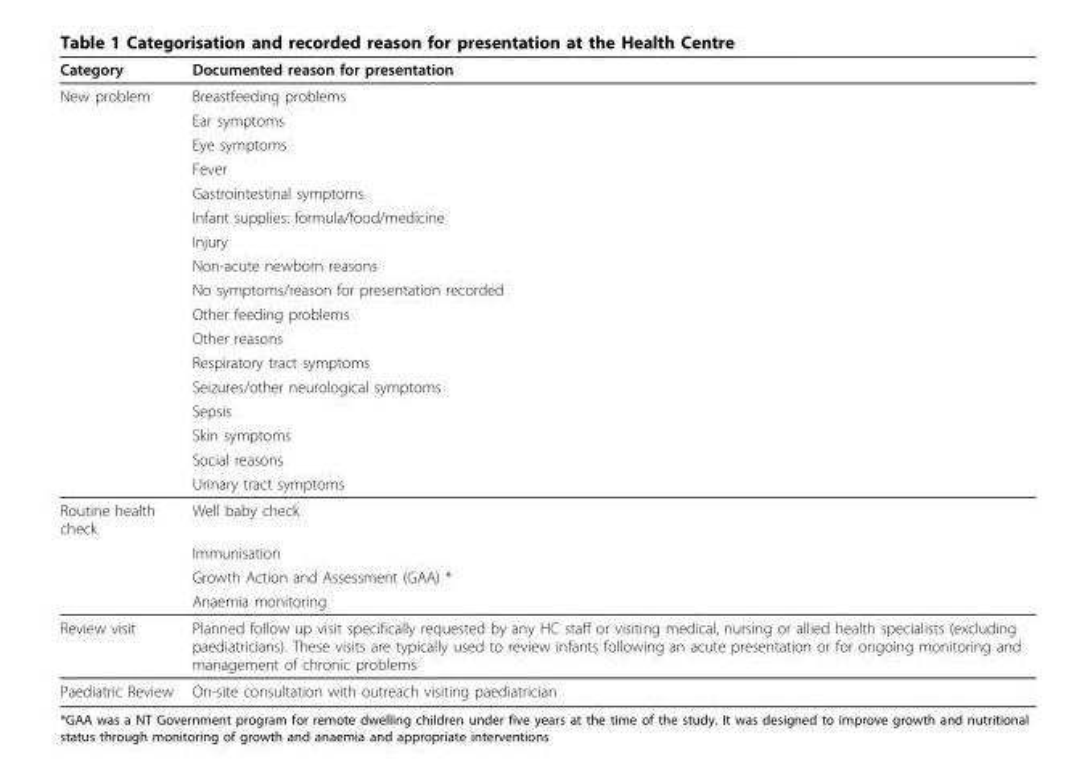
<table><thead><tr><td>Category</td><td>Documented reason for presentation</td></tr></thead><tbody><tr><td rowspan="17">New problem</td><td>Breastfeeding problems</td></tr><tr><td>Ear symptoms</td></tr><tr><td>Eye symptoms</td></tr><tr><td>Fever</td></tr><tr><td>Gastrointestinal symptoms</td></tr><tr><td>Infant supplies: formula/food/medicine</td></tr><tr><td>Injury</td></tr><tr><td>Non-acute newborn reasons</td></tr><tr><td>No symptoms/reason for presentation recorded</td></tr><tr><td>Other feeding problems</td></tr><tr><td>Other reasons</td></tr><tr><td>Respiratory tract symptoms</td></tr><tr><td>Seizures/other neurological symptoms</td></tr><tr><td>Sepsis</td></tr><tr><td>Skin symptoms</td></tr><tr><td>Social reasons</td></tr><tr><td>Urinary tract symptoms</td></tr><tr><td rowspan="4">Routine health check</td><td>Well baby check</td></tr><tr><td>Immunisation</td></tr><tr><td>Growth Action and Assessment (GAA) *</td></tr><tr><td>Anaemia monitoring</td></tr><tr><td>Review visit</td><td>Planned follow up visit specifically requested by any HC staff or visiting medical, nursing or allied health specialists (excluding paediatricians). These visits are typically used to review infants following an acute presentation or for ongoing monitoring and management of chronic problems</td></tr><tr><td>Paediatric Review</td><td>On-site consultation with outreach visiting paediatrician</td></tr></tbody></table>